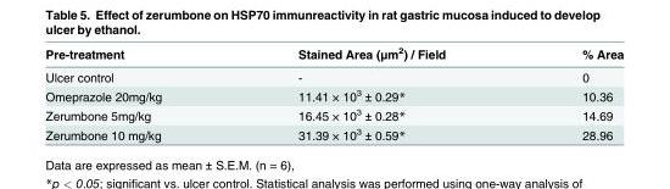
<table><thead><tr><td>Pre-treatment</td><td>Stained Area (μm2) / Field</td><td>% Area</td></tr></thead><tbody><tr><td>Ulcer control</td><td>-</td><td>0</td></tr><tr><td>Omeprazole 20mg/kg</td><td>11.41 × 103 ± 0.29*</td><td>10.36</td></tr><tr><td>Zerumbone 5mg/kg</td><td>16.45 × 103 ± 0.28*</td><td>14.69</td></tr><tr><td>Zerumbone 10 mg/kg</td><td>31.39 × 103 ± 0.59*</td><td>28.96</td></tr></tbody></table>